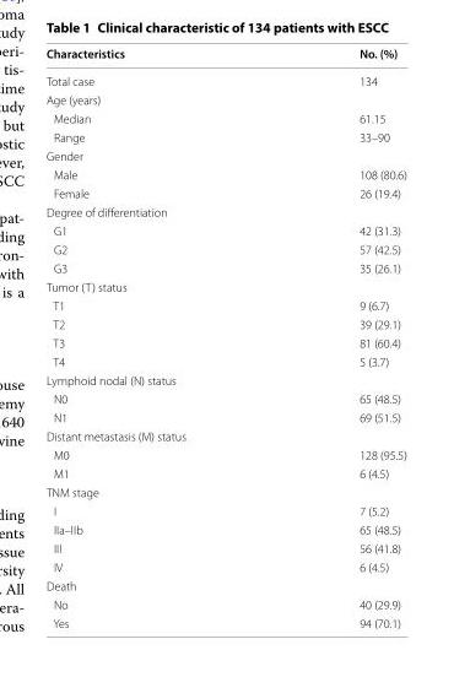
<table><thead><tr><td>Characteristics</td><td>No. (%)</td></tr></thead><tbody><tr><td>Total case</td><td>134</td></tr><tr><td colspan="2">Age (years)</td></tr><tr><td>Median</td><td>61.15</td></tr><tr><td>Range</td><td>33–90</td></tr><tr><td colspan="2">Gender</td></tr><tr><td>Male</td><td>108 (80.6)</td></tr><tr><td>Female</td><td>26 (19.4)</td></tr><tr><td colspan="2">Degree of differentiation</td></tr><tr><td>G1</td><td>42 (31.3)</td></tr><tr><td>G2</td><td>57 (42.5)</td></tr><tr><td>G3</td><td>35 (26.1)</td></tr><tr><td colspan="2">Tumor (T) status</td></tr><tr><td>T1</td><td>9 (6.7)</td></tr><tr><td>T2</td><td>39 (29.1)</td></tr><tr><td>T3</td><td>81 (60.4)</td></tr><tr><td>T4</td><td>5 (3.7)</td></tr><tr><td colspan="2">Lymphoid nodal (N) status</td></tr><tr><td>N0</td><td>65 (48.5)</td></tr><tr><td>N1</td><td>69 (51.5)</td></tr><tr><td colspan="2">Distant metastasis (M) status</td></tr><tr><td>M0</td><td>128 (95.5)</td></tr><tr><td>M1</td><td>6 (4.5)</td></tr><tr><td colspan="2">TNM stage</td></tr><tr><td>I</td><td>7 (5.2)</td></tr><tr><td>IIa–IIb</td><td>65 (48.5)</td></tr><tr><td>III</td><td>56 (41.8)</td></tr><tr><td>IV</td><td>6 (4.5)</td></tr><tr><td colspan="2">Death</td></tr><tr><td>No</td><td>40 (29.9)</td></tr><tr><td>Yes</td><td>94 (70.1)</td></tr></tbody></table>